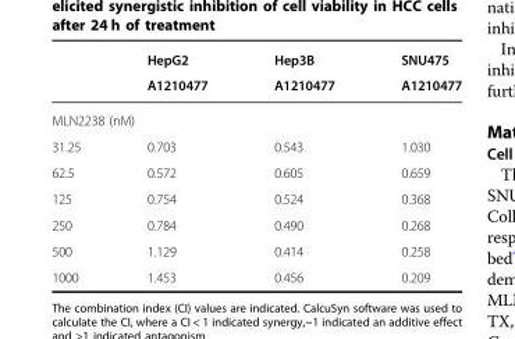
<table><thead><tr><td rowspan="2"></td><td rowspan="2">HepG2 A1210477</td><td rowspan="2">Hep3B A1210477</td><td rowspan="2">SNU475 A1210477</td></tr><tr></tr></thead><tbody><tr><td colspan="4">MLN2238 (nM)</td></tr><tr><td>31.25</td><td>0.703</td><td>0.543</td><td>1.030</td></tr><tr><td>62.5</td><td>0.572</td><td>0.605</td><td>0.659</td></tr><tr><td>125</td><td>0.754</td><td>0.524</td><td>0.368</td></tr><tr><td>250</td><td>0.784</td><td>0.490</td><td>0.268</td></tr><tr><td>500</td><td>1.129</td><td>0.414</td><td>0.258</td></tr><tr><td>1000</td><td>1.453</td><td>0.456</td><td>0.209</td></tr></tbody></table>